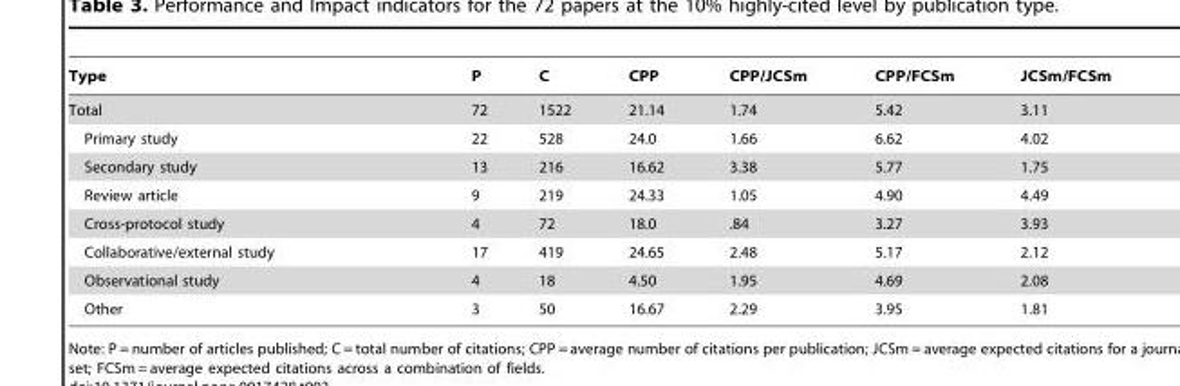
<table><thead><tr><td>Type</td><td>P</td><td>C</td><td>CPP</td><td>CPP/JCSm</td><td>CPP/FCSm</td><td>JCSm/FCSm</td></tr></thead><tbody><tr><td>Total</td><td>72</td><td>1522</td><td>21.14</td><td>1.74</td><td>5.42</td><td>3.11</td></tr><tr><td>Primary study</td><td>22</td><td>528</td><td>24.0</td><td>1.66</td><td>6.62</td><td>4.02</td></tr><tr><td>Secondary study</td><td>13</td><td>216</td><td>16.62</td><td>3.38</td><td>5.77</td><td>1.75</td></tr><tr><td>Review article</td><td>9</td><td>219</td><td>24.33</td><td>1.05</td><td>4.90</td><td>4.49</td></tr><tr><td>Cross-protocol study</td><td>4</td><td>72</td><td>18.0</td><td>.84</td><td>3.27</td><td>3.93</td></tr><tr><td>Collaborative/external study</td><td>17</td><td>419</td><td>24.65</td><td>2.48</td><td>5.17</td><td>2.12</td></tr><tr><td>Observational study</td><td>4</td><td>18</td><td>4.50</td><td>1.95</td><td>4.69</td><td>2.08</td></tr><tr><td>Other</td><td>3</td><td>50</td><td>16.67</td><td>2.29</td><td>3.95</td><td>1.81</td></tr></tbody></table>